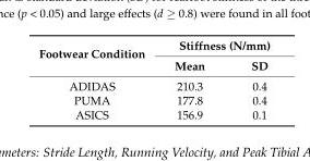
<table><thead><tr><td rowspan="2">Footwear Condition</td><td colspan="2">Stiffness (N/mm)</td></tr><tr><td>Mean</td><td>SD</td></tr></thead><tbody><tr><td>ADIDAS</td><td>210.3</td><td>0.4</td></tr><tr><td>PUMA</td><td>177.8</td><td>0.4</td></tr><tr><td>ASICS</td><td>156.9</td><td>0.1</td></tr></tbody></table>